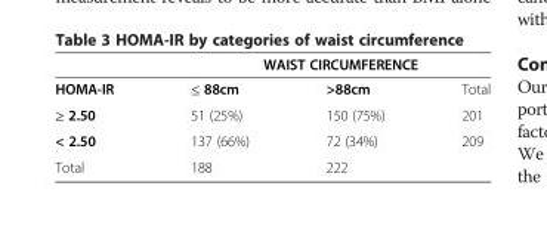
<table><thead><tr><td rowspan="2">HOMA-IR</td><td colspan="3">WAIST CIRCUMFERENCE</td></tr><tr><td>≤ 88cm</td><td>&gt;88cm</td><td>Total</td></tr></thead><tbody><tr><td>≥ 2.50</td><td>51 (25%)</td><td>150 (75%)</td><td>201</td></tr><tr><td>&lt; 2.50</td><td>137 (66%)</td><td>72 (34%)</td><td>209</td></tr><tr><td>Total</td><td>188</td><td>222</td><td></td></tr></tbody></table>